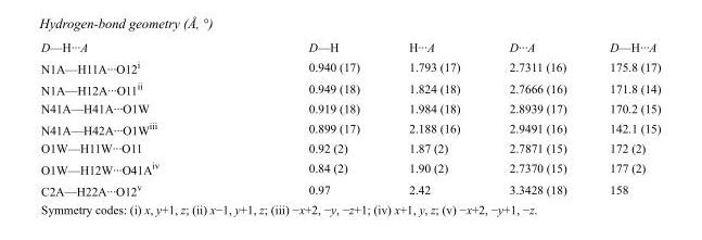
<table><tbody><tr><td>D—H···A</td><td>D—H</td><td>H···A</td><td>D···A</td><td>D—H···A</td></tr><tr><td>N1A—H11A···O12<sup>i</sup></td><td>0.940 (17)</td><td>1.793 (17)</td><td>2.7311 (16)</td><td>175.8 (17)</td></tr><tr><td>N1A—H12A···O11<sup>ii</sup></td><td>0.949 (18)</td><td>1.824 (18)</td><td>2.7666 (16)</td><td>171.8 (14)</td></tr><tr><td>N41A—H41A···O1W</td><td>0.919 (18)</td><td>1.984 (18)</td><td>2.8939 (17)</td><td>170.2 (15)</td></tr><tr><td>N41A—H42A···O1W<sup>iii</sup></td><td>0.899 (17)</td><td>2.188 (16)</td><td>2.9491 (16)</td><td>142.1 (15)</td></tr><tr><td>O1W—H11W···O11</td><td>0.92 (2)</td><td>1.87 (2)</td><td>2.7871 (15)</td><td>172 (2)</td></tr><tr><td>O1W—H12W···O41A<sup>iv</sup></td><td>0.84 (2)</td><td>1.90 (2)</td><td>2.7370 (15)</td><td>177 (2)</td></tr><tr><td>C2A—H22A···O12<sup>v</sup></td><td>0.97</td><td>2.42</td><td>3.3428 (18)</td><td>158</td></tr></tbody></table>